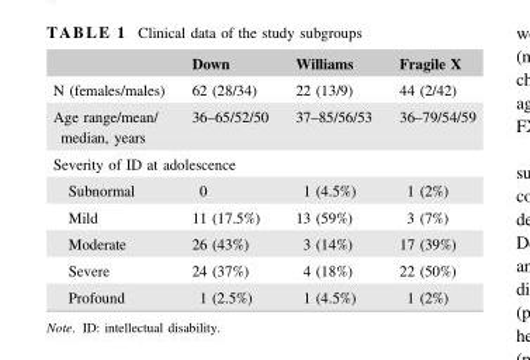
<table><thead><tr><td></td><td>Down</td><td>Williams</td><td>Fragile X</td></tr></thead><tbody><tr><td>N (females/males)</td><td>62 (28/34)</td><td>22 (13/9)</td><td>44 (2/42)</td></tr><tr><td>Age range/mean/ median, years</td><td>36–65/52/50</td><td>37–85/56/53</td><td>36–79/54/59</td></tr><tr><td colspan="4">Severity of ID at adolescence</td></tr><tr><td>Subnormal</td><td>0</td><td>1 (4.5%)</td><td>1 (2%)</td></tr><tr><td>Mild</td><td>11 (17.5%)</td><td>13 (59%)</td><td>3 (7%)</td></tr><tr><td>Moderate</td><td>26 (43%)</td><td>3 (14%)</td><td>17 (39%)</td></tr><tr><td>Severe</td><td>24 (37%)</td><td>4 (18%)</td><td>22 (50%)</td></tr><tr><td>Profound</td><td>1 (2.5%)</td><td>1 (4.5%)</td><td>1 (2%)</td></tr></tbody></table>